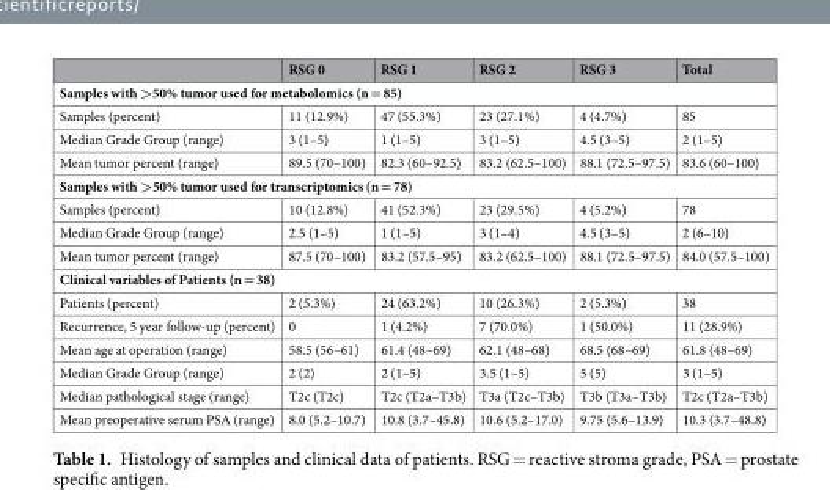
<table><thead><tr><td></td><td>RSG 0</td><td>RSG 1</td><td>RSG 2</td><td>RSG 3</td><td>Total</td></tr></thead><tbody><tr><td colspan="6">Samples with &gt;50% tumor used for metabolomics (n = 85)</td></tr><tr><td>Samples (percent)</td><td>11 (12.9%)</td><td>47 (55.3%)</td><td>23 (27.1%)</td><td>4 (4.7%)</td><td>85</td></tr><tr><td>Median Grade Group (range)</td><td>3 (1–5)</td><td>1 (1–5)</td><td>3 (1–5)</td><td>4.5 (3–5)</td><td>2 (1–5)</td></tr><tr><td>Mean tumor percent (range)</td><td>89.5 (70–100)</td><td>82.3 (60–92.5)</td><td>83.2 (62.5–100)</td><td>88.1 (72.5–97.5)</td><td>83.6 (60–100)</td></tr><tr><td colspan="6">Samples with &gt;50% tumor used for transcriptomics (n = 78)</td></tr><tr><td>Samples (percent)</td><td>10 (12.8%)</td><td>41 (52.3%)</td><td>23 (29.5%)</td><td>4 (5.2%)</td><td>78</td></tr><tr><td>Median Grade Group (range)</td><td>2.5 (1–5)</td><td>1 (1–5)</td><td>3 (1–4)</td><td>4.5 (3–5)</td><td>2 (6–10)</td></tr><tr><td>Mean tumor percent (range)</td><td>87.5 (70–100)</td><td>83.2 (57.5–95)</td><td>83.2 (62.5–100)</td><td>88.1 (72.5–97.5)</td><td>84.0 (57.5–100)</td></tr><tr><td colspan="6">Clinical variables of Patients (n = 38)</td></tr><tr><td>Patients (percent)</td><td>2 (5.3%)</td><td>24 (63.2%)</td><td>10 (26.3%)</td><td>2 (5.3%)</td><td>38</td></tr><tr><td>Recurrence, 5 year follow-up (percent)</td><td>0</td><td>1 (4.2%)</td><td>7 (70.0%)</td><td>1 (50.0%)</td><td>11 (28.9%)</td></tr><tr><td>Mean age at operation (range)</td><td>58.5 (56–61)</td><td>61.4 (48–69)</td><td>62.1 (48–68)</td><td>68.5 (68–69)</td><td>61.8 (48–69)</td></tr><tr><td>Median Grade Group (range)</td><td>2 (2)</td><td>2 (1–5)</td><td>3.5 (1–5)</td><td>5 (5)</td><td>3 (1–5)</td></tr><tr><td>Median pathological stage (range)</td><td>T2c (T2c)</td><td>T2c (T2a–T3b)</td><td>T3a (T2c–T3b)</td><td>T3b (T3a–T3b)</td><td>T2c (T2a–T3b)</td></tr><tr><td>Mean preoperative serum PSA (range)</td><td>8.0 (5.2–10.7)</td><td>10.8 (3.7–45.8)</td><td>10.6 (5.2–17.0)</td><td>9.75 (5.6–13.9)</td><td>10.3 (3.7–48.8)</td></tr></tbody></table>